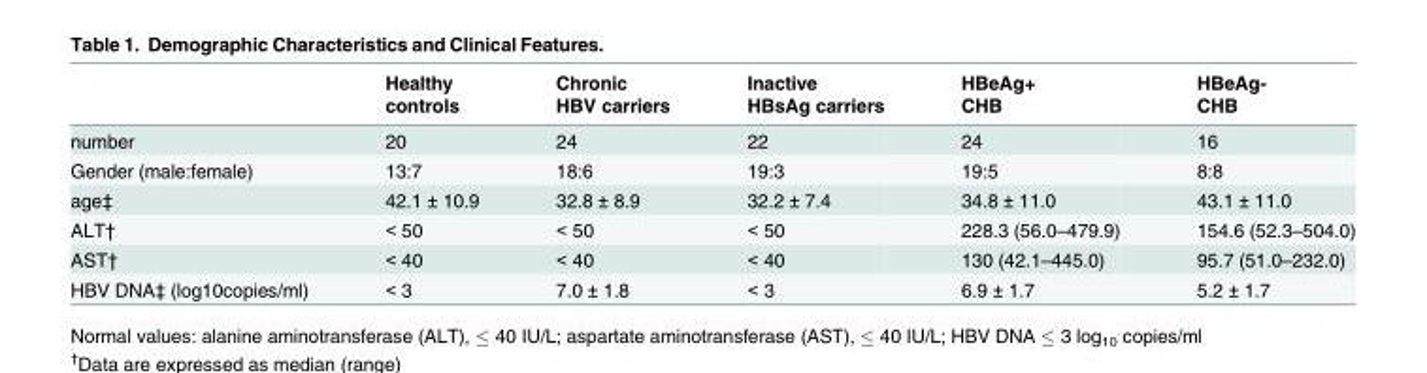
<table><thead><tr><td rowspan="2"></td><td rowspan="2">Healthy controls</td><td rowspan="2">Chronic HBV carriers</td><td rowspan="2">Inactive HBsAg carriers</td><td rowspan="2">HBeAg+ CHB</td><td rowspan="2">HBeAg- CHB</td></tr><tr></tr></thead><tbody><tr><td>number</td><td>20</td><td>24</td><td>22</td><td>24</td><td>16</td></tr><tr><td>Gender (male:female)</td><td>13:7</td><td>18:6</td><td>19:3</td><td>19:5</td><td>8:8</td></tr><tr><td>age‡</td><td>42.1 ± 10.9</td><td>32.8 ± 8.9</td><td>32.2 ± 7.4</td><td>34.8 ± 11.0</td><td>43.1 ± 11.0</td></tr><tr><td>ALT†</td><td>&lt; 50</td><td>&lt; 50</td><td>&lt; 50</td><td>228.3 (56.0–479.9)</td><td>154.6 (52.3–504.0)</td></tr><tr><td>AST†</td><td>&lt; 40</td><td>&lt; 40</td><td>&lt; 40</td><td>130 (42.1–445.0)</td><td>95.7 (51.0–232.0)</td></tr><tr><td>HBV DNA‡ (log10copies/ml)</td><td>&lt; 3</td><td>7.0 ± 1.8</td><td>&lt; 3</td><td>6.9 ± 1.7</td><td>5.2 ± 1.7</td></tr></tbody></table>